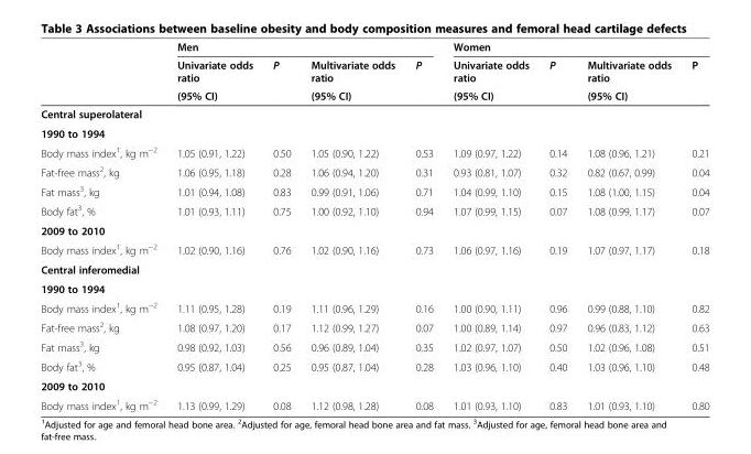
<table><thead><tr><td rowspan="3"></td><td colspan="4">Men</td><td colspan="4">Women</td></tr><tr><td rowspan="2">Univariate odds ratio (95% CI)</td><td rowspan="2">P</td><td rowspan="2">Multivariate odds ratio (95% CI)</td><td rowspan="2">P</td><td rowspan="2">Univariate odds ratio (95% CI)</td><td rowspan="2">P</td><td rowspan="2">Multivariate odds ratio (95% CI)</td><td rowspan="2">P</td></tr><tr></tr></thead><tbody><tr><td colspan="9">Central superolateral</td></tr><tr><td colspan="9">1990 to 1994</td></tr><tr><td>Body mass index<sup>1</sup>, kg m<sup>−2</sup></td><td>1.05 (0.91, 1.22)</td><td>0.50</td><td>1.05 (0.90, 1.22)</td><td>0.53</td><td>1.09 (0.97, 1.22)</td><td>0.14</td><td>1.08 (0.96, 1.21)</td><td>0.21</td></tr><tr><td>Fat-free mass<sup>2</sup>, kg</td><td>1.06 (0.95, 1.18)</td><td>0.28</td><td>1.06 (0.94, 1.20)</td><td>0.31</td><td>0.93 (0.81, 1.07)</td><td>0.32</td><td>0.82 (0.67, 0.99)</td><td>0.04</td></tr><tr><td>Fat mass<sup>3</sup>, kg</td><td>1.01 (0.94, 1.08)</td><td>0.83</td><td>0.99 (0.91, 1.06)</td><td>0.71</td><td>1.04 (0.99, 1.10)</td><td>0.15</td><td>1.08 (1.00, 1.15)</td><td>0.04</td></tr><tr><td>Body fat<sup>3</sup>, %</td><td>1.01 (0.93, 1.11)</td><td>0.75</td><td>1.00 (0.92, 1.10)</td><td>0.94</td><td>1.07 (0.99, 1.15)</td><td>0.07</td><td>1.08 (0.99, 1.17)</td><td>0.07</td></tr><tr><td colspan="9">2009 to 2010</td></tr><tr><td>Body mass index<sup>1</sup>, kg m<sup>−2</sup></td><td>1.02 (0.90, 1.16)</td><td>0.76</td><td>1.02 (0.90, 1.16)</td><td>0.73</td><td>1.06 (0.97, 1.16)</td><td>0.19</td><td>1.07 (0.97, 1.17)</td><td>0.18</td></tr><tr><td colspan="9">Central inferomedial</td></tr><tr><td colspan="9">1990 to 1994</td></tr><tr><td>Body mass index<sup>1</sup>, kg m<sup>−2</sup></td><td>1.11 (0.95, 1.28)</td><td>0.19</td><td>1.11 (0.96, 1.29)</td><td>0.16</td><td>1.00 (0.90, 1.11)</td><td>0.96</td><td>0.99 (0.88, 1.10)</td><td>0.82</td></tr><tr><td>Fat-free mass<sup>2</sup>, kg</td><td>1.08 (0.97, 1.20)</td><td>0.17</td><td>1.12 (0.99, 1.27)</td><td>0.07</td><td>1.00 (0.89, 1.14)</td><td>0.97</td><td>0.96 (0.83, 1.12)</td><td>0.63</td></tr><tr><td>Fat mass<sup>3</sup>, kg</td><td>0.98 (0.92, 1.03)</td><td>0.56</td><td>0.96 (0.89, 1.04)</td><td>0.35</td><td>1.02 (0.97, 1.07)</td><td>0.50</td><td>1.02 (0.96, 1.08)</td><td>0.51</td></tr><tr><td>Body fat<sup>3</sup>, %</td><td>0.95 (0.87, 1.04)</td><td>0.25</td><td>0.95 (0.87, 1.04)</td><td>0.28</td><td>1.03 (0.96, 1.10)</td><td>0.40</td><td>1.03 (0.96, 1.10)</td><td>0.48</td></tr><tr><td colspan="9">2009 to 2010</td></tr><tr><td>Body mass index<sup>1</sup>, kg m<sup>−2</sup></td><td>1.13 (0.99, 1.29)</td><td>0.08</td><td>1.12 (0.98, 1.28)</td><td>0.08</td><td>1.01 (0.93, 1.10)</td><td>0.83</td><td>1.01 (0.93, 1.10)</td><td>0.80</td></tr></tbody></table>